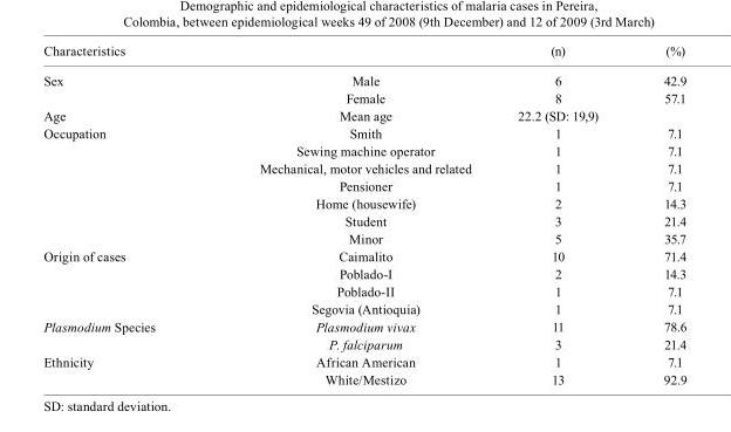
<table><thead><tr><td>Characteristics</td><td></td><td>(n)</td><td>(%)</td></tr></thead><tbody><tr><td rowspan="2">Sex</td><td>Male</td><td>6</td><td>42.9</td></tr><tr><td>Female</td><td>8</td><td>57.1</td></tr><tr><td>Age</td><td>Mean age</td><td>22.2 (SD: 19,9)</td><td></td></tr><tr><td rowspan="7">Occupation</td><td>Smith</td><td>1</td><td>7.1</td></tr><tr><td>Sewing machine operator</td><td>1</td><td>7.1</td></tr><tr><td>Mechanical, motor vehicles and related</td><td>1</td><td>7.1</td></tr><tr><td>Pensioner</td><td>1</td><td>7.1</td></tr><tr><td>Home (housewife)</td><td>2</td><td>14.3</td></tr><tr><td>Student</td><td>3</td><td>21.4</td></tr><tr><td>Minor</td><td>5</td><td>35.7</td></tr><tr><td rowspan="4">Origin of cases</td><td>Caimalito</td><td>10</td><td>71.4</td></tr><tr><td>Poblado-I</td><td>2</td><td>14.3</td></tr><tr><td>Poblado-II</td><td>1</td><td>7.1</td></tr><tr><td>Segovia (Antioquia)</td><td>1</td><td>7.1</td></tr><tr><td rowspan="2">Plasmodium Species</td><td>Plasmodium vivax</td><td>11</td><td>78.6</td></tr><tr><td>P. falciparum</td><td>3</td><td>21.4</td></tr><tr><td rowspan="2">Ethnicity</td><td>African American</td><td>1</td><td>7.1</td></tr><tr><td>White/Mestizo</td><td>13</td><td>92.9</td></tr></tbody></table>